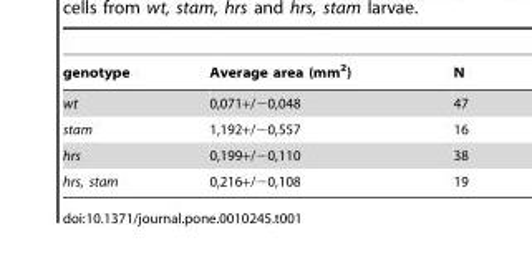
<table><thead><tr><td>genotype</td><td>Average area (mm<sup>2</sup>)</td><td>N</td></tr></thead><tbody><tr><td>wt</td><td>0,071+/−0,048</td><td>47</td></tr><tr><td>stam</td><td>1,192+/−0,557</td><td>16</td></tr><tr><td>hrs</td><td>0,199+/−0,110</td><td>38</td></tr><tr><td>hrs, stam</td><td>0,216+/−0,108</td><td>19</td></tr></tbody></table>